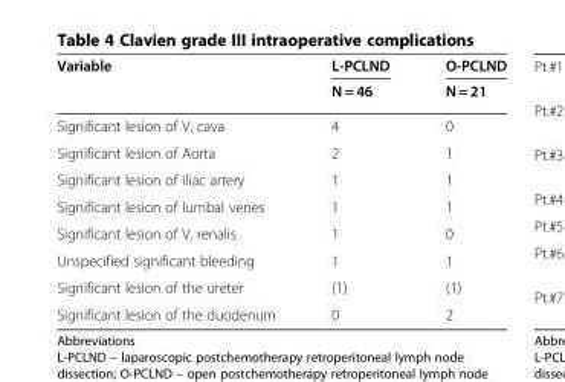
<table><thead><tr><td rowspan="2">Variable</td><td rowspan="2">L-PCLND N = 46</td><td rowspan="2">O-PCLND N = 21</td></tr><tr></tr></thead><tbody><tr><td>Significant lesion of V. cava</td><td>4</td><td>0</td></tr><tr><td>Significant lesion of Aorta</td><td>2</td><td>1</td></tr><tr><td>Significant lesion of iliac artery</td><td>1</td><td>1</td></tr><tr><td>Significant lesion of lumbal venes</td><td>1</td><td>1</td></tr><tr><td>Significant lesion of V. renalis</td><td>1</td><td>0</td></tr><tr><td>Unspecified significant bleeding</td><td>1</td><td>1</td></tr><tr><td>Significant lesion of the ureter</td><td>(1)</td><td>(1)</td></tr><tr><td>Significant lesion of the duodenum</td><td>0</td><td>2</td></tr></tbody></table>